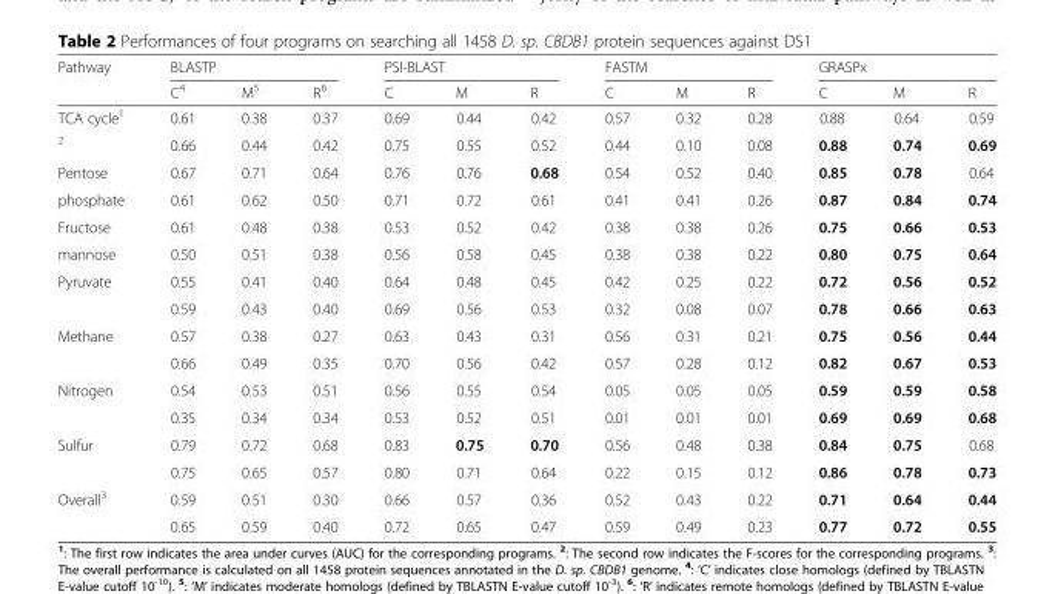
<table><thead><tr><td rowspan="2">Pathway</td><td colspan="3">BLASTP</td><td colspan="3">PSI-BLAST</td><td colspan="3">FASTM</td><td colspan="3">GRASPx</td></tr><tr><td>C<sup>4</sup></td><td>M<sup>5</sup></td><td>R<sup>6</sup></td><td>C</td><td>M</td><td>R</td><td>C</td><td>M</td><td>R</td><td>C</td><td>M</td><td>R</td></tr></thead><tbody><tr><td>TCA cycle<sup>1</sup></td><td>0.61</td><td>0.38</td><td>0.37</td><td>0.69</td><td>0.44</td><td>0.42</td><td>0.57</td><td>0.32</td><td>0.28</td><td>0.88</td><td>0.64</td><td>0.59</td></tr><tr><td><sup>2</sup></td><td>0.66</td><td>0.44</td><td>0.42</td><td>0.75</td><td>0.55</td><td>0.52</td><td>0.44</td><td>0.10</td><td>0.08</td><td>0.88</td><td>0.74</td><td>0.69</td></tr><tr><td>Pentose</td><td>0.67</td><td>0.71</td><td>0.64</td><td>0.76</td><td>0.76</td><td>0.68</td><td>0.54</td><td>0.52</td><td>0.40</td><td>0.85</td><td>0.78</td><td>0.64</td></tr><tr><td>phosphate</td><td>0.61</td><td>0.62</td><td>0.50</td><td>0.71</td><td>0.72</td><td>0.61</td><td>0.41</td><td>0.41</td><td>0.26</td><td>0.87</td><td>0.84</td><td>0.74</td></tr><tr><td>Fructose</td><td>0.61</td><td>0.48</td><td>0.38</td><td>0.53</td><td>0.52</td><td>0.42</td><td>0.38</td><td>0.38</td><td>0.26</td><td>0.75</td><td>0.66</td><td>0.53</td></tr><tr><td>mannose</td><td>0.50</td><td>0.51</td><td>0.38</td><td>0.56</td><td>0.58</td><td>0.45</td><td>0.38</td><td>0.38</td><td>0.22</td><td>0.80</td><td>0.75</td><td>0.64</td></tr><tr><td rowspan="2">Pyruvate</td><td>0.55</td><td>0.41</td><td>0.40</td><td>0.64</td><td>0.48</td><td>0.45</td><td>0.42</td><td>0.25</td><td>0.22</td><td>0.72</td><td>0.56</td><td>0.52</td></tr><tr><td>0.59</td><td>0.43</td><td>0.40</td><td>0.69</td><td>0.56</td><td>0.53</td><td>0.32</td><td>0.08</td><td>0.07</td><td>0.78</td><td>0.66</td><td>0.63</td></tr><tr><td rowspan="2">Methane</td><td>0.57</td><td>0.38</td><td>0.27</td><td>0.63</td><td>0.43</td><td>0.31</td><td>0.56</td><td>0.31</td><td>0.21</td><td>0.75</td><td>0.56</td><td>0.44</td></tr><tr><td>0.66</td><td>0.49</td><td>0.35</td><td>0.70</td><td>0.56</td><td>0.42</td><td>0.57</td><td>0.28</td><td>0.12</td><td>0.82</td><td>0.67</td><td>0.53</td></tr><tr><td rowspan="2">Nitrogen</td><td>0.54</td><td>0.53</td><td>0.51</td><td>0.56</td><td>0.55</td><td>0.54</td><td>0.05</td><td>0.05</td><td>0.05</td><td>0.59</td><td>0.59</td><td>0.58</td></tr><tr><td>0.35</td><td>0.34</td><td>0.34</td><td>0.53</td><td>0.52</td><td>0.51</td><td>0.01</td><td>0.01</td><td>0.01</td><td>0.69</td><td>0.69</td><td>0.68</td></tr><tr><td rowspan="2">Sulfur</td><td>0.79</td><td>0.72</td><td>0.68</td><td>0.83</td><td>0.75</td><td>0.70</td><td>0.56</td><td>0.48</td><td>0.38</td><td>0.84</td><td>0.75</td><td>0.68</td></tr><tr><td>0.75</td><td>0.65</td><td>0.57</td><td>0.80</td><td>0.71</td><td>0.64</td><td>0.22</td><td>0.15</td><td>0.12</td><td>0.86</td><td>0.78</td><td>0.73</td></tr><tr><td rowspan="2">Overall<sup>3</sup></td><td>0.59</td><td>0.51</td><td>0.30</td><td>0.66</td><td>0.57</td><td>0.36</td><td>0.52</td><td>0.43</td><td>0.22</td><td>0.71</td><td>0.64</td><td>0.44</td></tr><tr><td>0.65</td><td>0.59</td><td>0.40</td><td>0.72</td><td>0.65</td><td>0.47</td><td>0.59</td><td>0.49</td><td>0.23</td><td>0.77</td><td>0.72</td><td>0.55</td></tr></tbody></table>